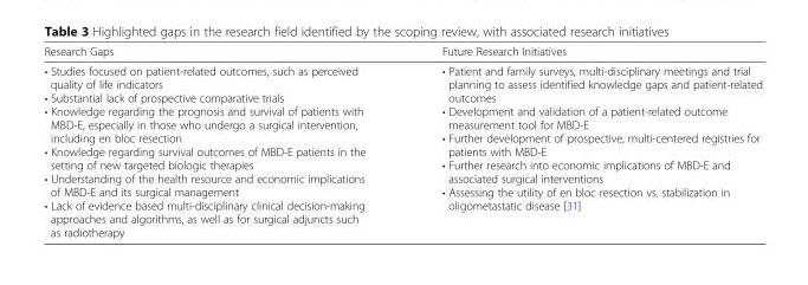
<table><thead><tr><td>Research Gaps</td><td>Future Research Initiatives</td></tr></thead><tbody><tr><td>• Studies focused on patient-related outcomes, such as perceived quality of life indicators • Substantial lack of prospective comparative trials • Knowledge regarding the prognosis and survival of patients with MBD-E, especially in those who undergo a surgical intervention, including en bloc resection • Knowledge regarding survival outcomes of MBD-E patients in the setting of new targeted biologic therapies • Understanding of the health resource and economic implications of MBD-E and its surgical management • Lack of evidence based multi-disciplinary clinical decision-making approaches and algorithms, as well as for surgical adjuncts such as radiotherapy</td><td>• Patient and family surveys, multi-disciplinary meetings and trial planning to assess identified knowledge gaps and patient-related outcomes • Development and validation of a patient-related outcome measurement tool for MBD-E • Further development of prospective, multi-centered registries for patients with MBD-E • Further research into economic implications of MBD-E and associated surgical interventions • Assessing the utility of en bloc resection vs. stabilization in oligometastatic disease [31]</td></tr></tbody></table>